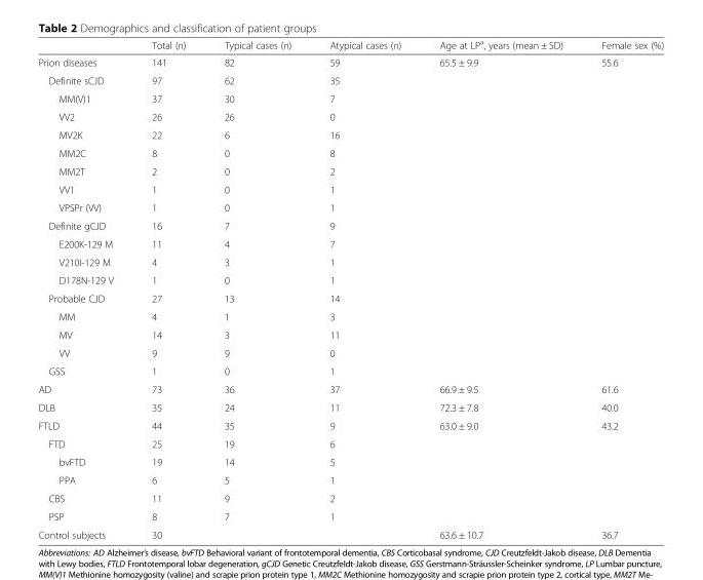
<table><thead><tr><td></td><td>Total (n)</td><td>Typical cases (n)</td><td>Atypical cases (n)</td><td>Age at LP<sup>a</sup>, years (mean ± SD)</td><td>Female sex (%)</td></tr></thead><tbody><tr><td>Prion diseases</td><td>141</td><td>82</td><td>59</td><td>65.5 ± 9.9</td><td>55.6</td></tr><tr><td>Definite sCJD</td><td>97</td><td>62</td><td>35</td><td></td><td rowspan="17"></td></tr><tr><td>MM(V)1</td><td>37</td><td>30</td><td>7</td><td></td></tr><tr><td>VV2</td><td>26</td><td>26</td><td>0</td><td></td></tr><tr><td>MV2K</td><td>22</td><td>6</td><td>16</td><td></td></tr><tr><td>MM2C</td><td>8</td><td>0</td><td>8</td><td></td></tr><tr><td>MM2T</td><td>2</td><td>0</td><td>2</td><td></td></tr><tr><td>VV1</td><td>1</td><td>0</td><td>1</td><td></td></tr><tr><td>VPSPr (VV)</td><td>1</td><td>0</td><td>1</td><td></td></tr><tr><td>Definite gCJD</td><td>16</td><td>7</td><td>9</td><td></td></tr><tr><td>E200K-129 M</td><td>11</td><td>4</td><td>7</td><td></td></tr><tr><td>V210I-129 M</td><td>4</td><td>3</td><td>1</td><td></td></tr><tr><td>D178N-129 V</td><td>1</td><td>0</td><td>1</td><td></td></tr><tr><td>Probable CJD</td><td>27</td><td>13</td><td>14</td><td></td></tr><tr><td>MM</td><td>4</td><td>1</td><td>3</td><td></td></tr><tr><td>MV</td><td>14</td><td>3</td><td>11</td><td></td></tr><tr><td>VV</td><td>9</td><td>9</td><td>0</td><td></td></tr><tr><td>GSS</td><td>1</td><td>0</td><td>1</td><td></td></tr><tr><td>AD</td><td>73</td><td>36</td><td>37</td><td>66.9 ± 9.5</td><td>61.6</td></tr><tr><td>DLB</td><td>35</td><td>24</td><td>11</td><td>72.3 ± 7.8</td><td>40.0</td></tr><tr><td>FTLD</td><td>44</td><td>35</td><td>9</td><td>63.0 ± 9.0</td><td>43.2</td></tr><tr><td>FTD</td><td>25</td><td>19</td><td>6</td><td></td><td rowspan="5"></td></tr><tr><td>bvFTD</td><td>19</td><td>14</td><td>5</td><td></td></tr><tr><td>PPA</td><td>6</td><td>5</td><td>1</td><td></td></tr><tr><td>CBS</td><td>11</td><td>9</td><td>2</td><td></td></tr><tr><td>PSP</td><td>8</td><td>7</td><td>1</td><td></td></tr><tr><td>Control subjects</td><td>30</td><td></td><td></td><td>63.6 ± 10.7</td><td>36.7</td></tr></tbody></table>